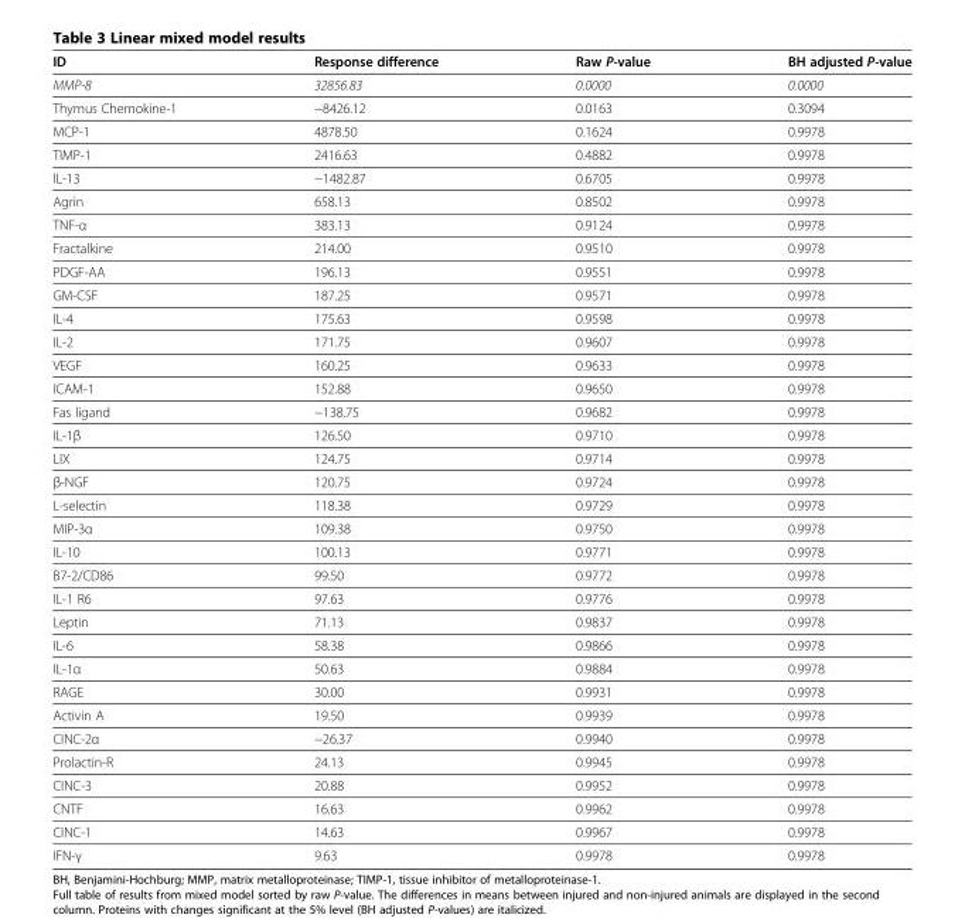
<table><thead><tr><td>ID</td><td>Response difference</td><td>Raw P-value</td><td>BH adjusted P-value</td></tr></thead><tbody><tr><td>MMP-8</td><td>32856.83</td><td>0.0000</td><td>0.0000</td></tr><tr><td>Thymus Chemokine-1</td><td>−8426.12</td><td>0.0163</td><td>0.3094</td></tr><tr><td>MCP-1</td><td>4878.50</td><td>0.1624</td><td>0.9978</td></tr><tr><td>TIMP-1</td><td>2416.63</td><td>0.4882</td><td>0.9978</td></tr><tr><td>IL-13</td><td>−1482.87</td><td>0.6705</td><td>0.9978</td></tr><tr><td>Agrin</td><td>658.13</td><td>0.8502</td><td>0.9978</td></tr><tr><td>TNF-α</td><td>383.13</td><td>0.9124</td><td>0.9978</td></tr><tr><td>Fractalkine</td><td>214.00</td><td>0.9510</td><td>0.9978</td></tr><tr><td>PDGF-AA</td><td>196.13</td><td>0.9551</td><td>0.9978</td></tr><tr><td>GM-CSF</td><td>187.25</td><td>0.9571</td><td>0.9978</td></tr><tr><td>IL-4</td><td>175.63</td><td>0.9598</td><td>0.9978</td></tr><tr><td>IL-2</td><td>171.75</td><td>0.9607</td><td>0.9978</td></tr><tr><td>VEGF</td><td>160.25</td><td>0.9633</td><td>0.9978</td></tr><tr><td>ICAM-1</td><td>152.88</td><td>0.9650</td><td>0.9978</td></tr><tr><td>Fas ligand</td><td>−138.75</td><td>0.9682</td><td>0.9978</td></tr><tr><td>IL-1β</td><td>126.50</td><td>0.9710</td><td>0.9978</td></tr><tr><td>LIX</td><td>124.75</td><td>0.9714</td><td>0.9978</td></tr><tr><td>β-NGF</td><td>120.75</td><td>0.9724</td><td>0.9978</td></tr><tr><td>L-selectin</td><td>118.38</td><td>0.9729</td><td>0.9978</td></tr><tr><td>MIP-3α</td><td>109.38</td><td>0.9750</td><td>0.9978</td></tr><tr><td>IL-10</td><td>100.13</td><td>0.9771</td><td>0.9978</td></tr><tr><td>B7-2/CD86</td><td>99.50</td><td>0.9772</td><td>0.9978</td></tr><tr><td>IL-1 R6</td><td>97.63</td><td>0.9776</td><td>0.9978</td></tr><tr><td>Leptin</td><td>71.13</td><td>0.9837</td><td>0.9978</td></tr><tr><td>IL-6</td><td>58.38</td><td>0.9866</td><td>0.9978</td></tr><tr><td>IL-1α</td><td>50.63</td><td>0.9884</td><td>0.9978</td></tr><tr><td>RAGE</td><td>30.00</td><td>0.9931</td><td>0.9978</td></tr><tr><td>Activin A</td><td>19.50</td><td>0.9939</td><td>0.9978</td></tr><tr><td>CINC-2α</td><td>−26.37</td><td>0.9940</td><td>0.9978</td></tr><tr><td>Prolactin-R</td><td>24.13</td><td>0.9945</td><td>0.9978</td></tr><tr><td>CINC-3</td><td>20.88</td><td>0.9952</td><td>0.9978</td></tr><tr><td>CNTF</td><td>16.63</td><td>0.9962</td><td>0.9978</td></tr><tr><td>CINC-1</td><td>14.63</td><td>0.9967</td><td>0.9978</td></tr><tr><td>IFN-γ</td><td>9.63</td><td>0.9978</td><td>0.9978</td></tr></tbody></table>